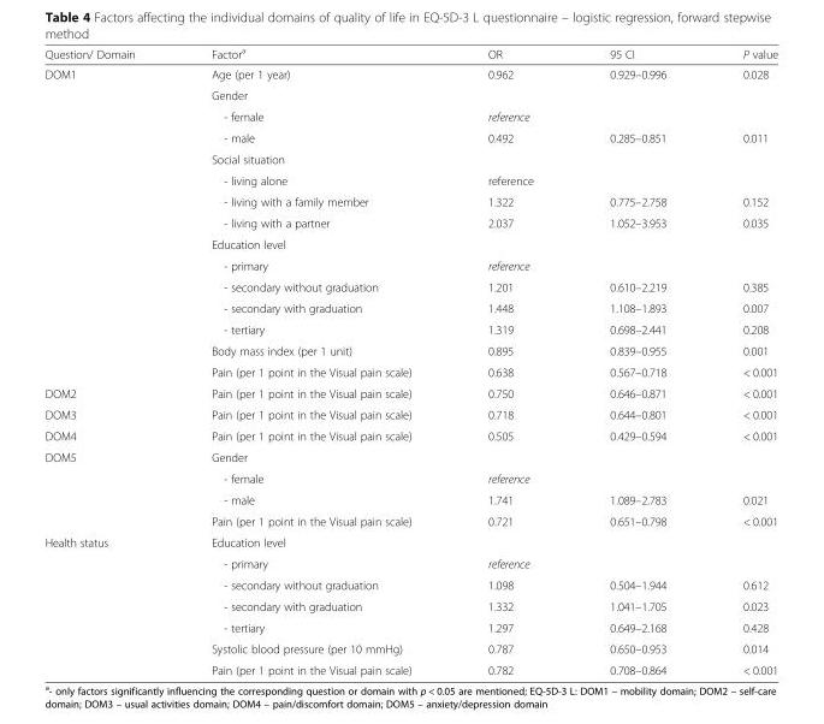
<table><thead><tr><td>Question/ Domain</td><td>Factor<sup>a</sup></td><td>OR</td><td>95 CI</td><td>P value</td></tr></thead><tbody><tr><td rowspan="15">DOM1</td><td>Age (per 1 year)</td><td>0.962</td><td>0.929–0.996</td><td>0.028</td></tr><tr><td colspan="4">Gender</td></tr><tr><td>- female</td><td>reference</td><td></td><td></td></tr><tr><td>- male</td><td>0.492</td><td>0.285–0.851</td><td>0.011</td></tr><tr><td colspan="4">Social situation</td></tr><tr><td>- living alone</td><td>reference</td><td></td><td></td></tr><tr><td>- living with a family member</td><td>1.322</td><td>0.775–2.758</td><td>0.152</td></tr><tr><td>- living with a partner</td><td>2.037</td><td>1.052–3.953</td><td>0.035</td></tr><tr><td colspan="4">Education level</td></tr><tr><td>- primary</td><td>reference</td><td></td><td></td></tr><tr><td>- secondary without graduation</td><td>1.201</td><td>0.610–2.219</td><td>0.385</td></tr><tr><td>- secondary with graduation</td><td>1.448</td><td>1.108–1.893</td><td>0.007</td></tr><tr><td>- tertiary</td><td>1.319</td><td>0.698–2.441</td><td>0.208</td></tr><tr><td>Body mass index (per 1 unit)</td><td>0.895</td><td>0.839–0.955</td><td>0.001</td></tr><tr><td>Pain (per 1 point in the Visual pain scale)</td><td>0.638</td><td>0.567–0.718</td><td>&lt; 0.001</td></tr><tr><td>DOM2</td><td>Pain (per 1 point in the Visual pain scale)</td><td>0.750</td><td>0.646–0.871</td><td>&lt; 0.001</td></tr><tr><td>DOM3</td><td>Pain (per 1 point in the Visual pain scale)</td><td>0.718</td><td>0.644–0.801</td><td>&lt; 0.001</td></tr><tr><td>DOM4</td><td>Pain (per 1 point in the Visual pain scale)</td><td>0.505</td><td>0.429–0.594</td><td>&lt; 0.001</td></tr><tr><td rowspan="4">DOM5</td><td colspan="4">Gender</td></tr><tr><td>- female</td><td>reference</td><td></td><td></td></tr><tr><td>- male</td><td>1.741</td><td>1.089–2.783</td><td>0.021</td></tr><tr><td>Pain (per 1 point in the Visual pain scale)</td><td>0.721</td><td>0.651–0.798</td><td>&lt; 0.001</td></tr><tr><td rowspan="7">Health status</td><td colspan="4">Education level</td></tr><tr><td>- primary</td><td>reference</td><td></td><td></td></tr><tr><td>- secondary without graduation</td><td>1.098</td><td>0.504–1.944</td><td>0.612</td></tr><tr><td>- secondary with graduation</td><td>1.332</td><td>1.041–1.705</td><td>0.023</td></tr><tr><td>- tertiary</td><td>1.297</td><td>0.649–2.168</td><td>0.428</td></tr><tr><td>Systolic blood pressure (per 10 mmHg)</td><td>0.787</td><td>0.650–0.953</td><td>0.014</td></tr><tr><td>Pain (per 1 point in the Visual pain scale)</td><td>0.782</td><td>0.708–0.864</td><td>&lt; 0.001</td></tr></tbody></table>